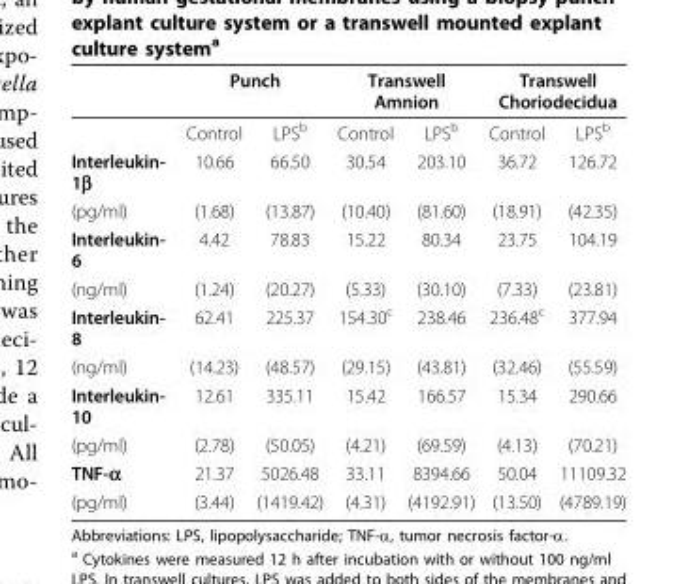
<table><thead><tr><td rowspan="2"></td><td colspan="2">Punch</td><td colspan="2">Transwell Amnion</td><td colspan="2">Transwell Choriodecidua</td></tr><tr><td>Control</td><td>LPS<sup>b</sup></td><td>Control</td><td>LPS<sup>b</sup></td><td>Control</td><td>LPS<sup>b</sup></td></tr></thead><tbody><tr><td>Interleukin- 1β</td><td>10.66</td><td>66.50</td><td>30.54</td><td>203.10</td><td>36.72</td><td>126.72</td></tr><tr><td>(pg/ml)</td><td>(1.68)</td><td>(13.87)</td><td>(10.40)</td><td>(81.60)</td><td>(18.91)</td><td>(42.35)</td></tr><tr><td>Interleukin- 6</td><td>4.42</td><td>78.83</td><td>15.22</td><td>80.34</td><td>23.75</td><td>104.19</td></tr><tr><td>(ng/ml)</td><td>(1.24)</td><td>(20.27)</td><td>(5.33)</td><td>(30.10)</td><td>(7.33)</td><td>(23.81)</td></tr><tr><td>Interleukin- 8</td><td>62.41</td><td>225.37</td><td>154.30<sup>c</sup></td><td>238.46</td><td>236.48<sup>c</sup></td><td>377.94</td></tr><tr><td>(ng/ml)</td><td>(14.23)</td><td>(48.57)</td><td>(29.15)</td><td>(43.81)</td><td>(32.46)</td><td>(55.59)</td></tr><tr><td>Interleukin- 10</td><td>12.61</td><td>335.11</td><td>15.42</td><td>166.57</td><td>15.34</td><td>290.66</td></tr><tr><td>(pg/ml)</td><td>(2.78)</td><td>(50.05)</td><td>(4.21)</td><td>(69.59)</td><td>(4.13)</td><td>(70.21)</td></tr><tr><td>TNF-α</td><td>21.37</td><td>5026.48</td><td>33.11</td><td>8394.66</td><td>50.04</td><td>11109.32</td></tr><tr><td>(pg/ml)</td><td>(3.44)</td><td>(1419.42)</td><td>(4.31)</td><td>(4192.91)</td><td>(13.50)</td><td>(4789.19)</td></tr></tbody></table>